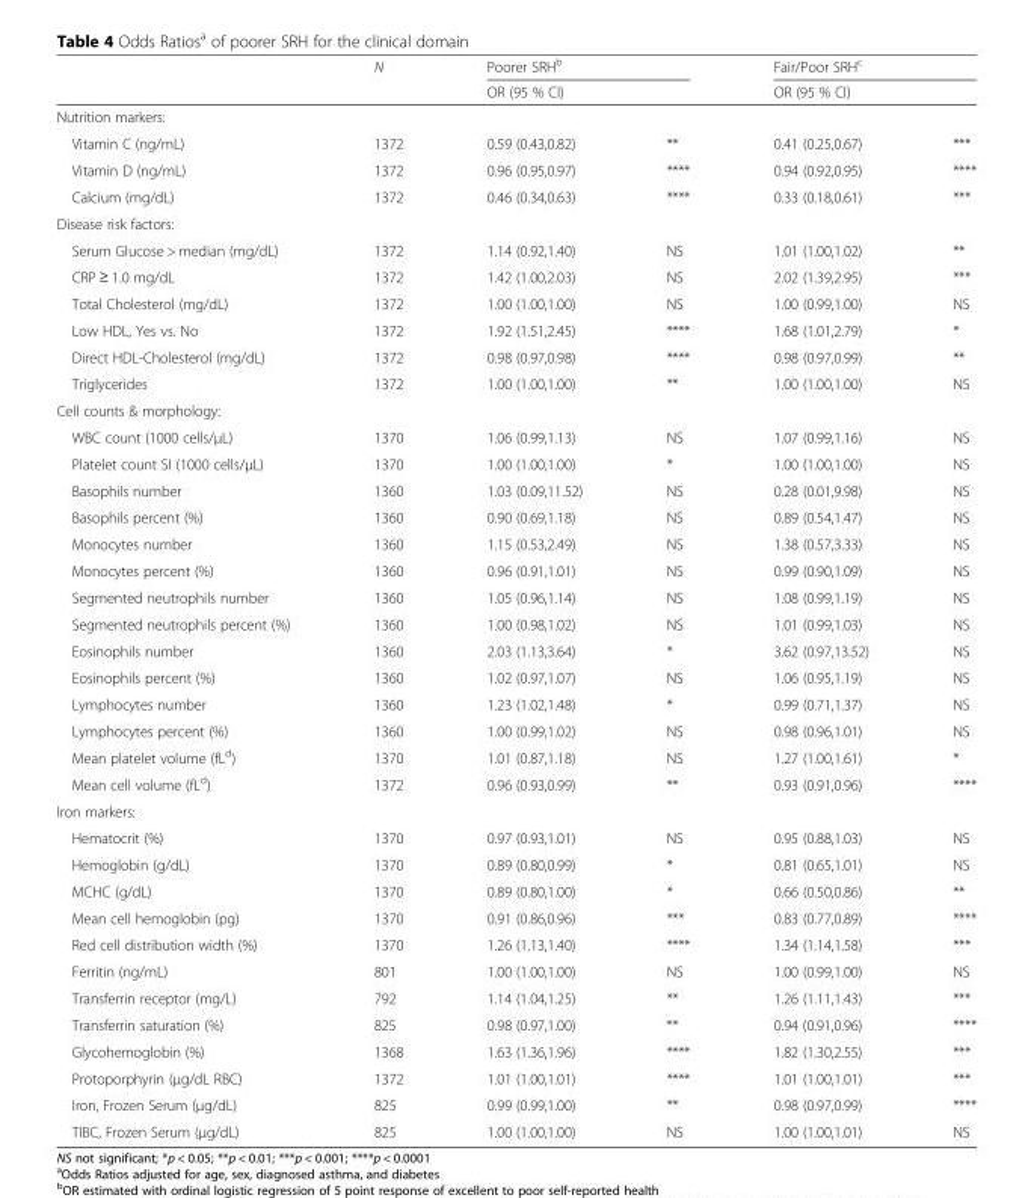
<table><thead><tr><td rowspan="3">Nutrition markers:</td><td rowspan="3">N</td><td rowspan="2" colspan="2">Poorer SRH<sup>b</sup> OR (95 % CI)</td><td rowspan="2" colspan="2">Fair/Poor SRH<sup>c</sup> OR (95 % CI)</td></tr><tr></tr><tr><td></td><td></td><td></td><td></td></tr></thead><tbody><tr><td>Vitamin C (ng/mL)</td><td>1372</td><td>0.59 (0.43,0.82)</td><td>**</td><td>0.41 (0.25,0.67)</td><td>***</td></tr><tr><td>Vitamin D (ng/mL)</td><td>1372</td><td>0.96 (0.95,0.97)</td><td>****</td><td>0.94 (0.92,0.95)</td><td>****</td></tr><tr><td>Calcium (mg/dL)</td><td>1372</td><td>0.46 (0.34,0.63)</td><td>****</td><td>0.33 (0.18,0.61)</td><td>***</td></tr><tr><td colspan="6">Disease risk factors:</td></tr><tr><td>Serum Glucose &gt; median (mg/dL)</td><td>1372</td><td>1.14 (0.92,1.40)</td><td>NS</td><td>1.01 (1.00,1.02)</td><td>**</td></tr><tr><td>CRP ≥ 1.0 mg/dL</td><td>1372</td><td>1.42 (1.00,2.03)</td><td>NS</td><td>2.02 (1.39,2.95)</td><td>***</td></tr><tr><td>Total Cholesterol (mg/dL)</td><td>1372</td><td>1.00 (1.00,1.00)</td><td>NS</td><td>1.00 (0.99,1.00)</td><td>NS</td></tr><tr><td>Low HDL, Yes vs. No</td><td>1372</td><td>1.92 (1.51,2.45)</td><td>****</td><td>1.68 (1.01,2.79)</td><td>*</td></tr><tr><td>Direct HDL-Cholesterol (mg/dL)</td><td>1372</td><td>0.98 (0.97,0.98)</td><td>****</td><td>0.98 (0.97,0.99)</td><td>**</td></tr><tr><td>Triglycerides</td><td>1372</td><td>1.00 (1.00,1.00)</td><td>**</td><td>1.00 (1.00,1.00)</td><td>NS</td></tr><tr><td colspan="6">Cell counts &amp; morphology:</td></tr><tr><td>WBC count (1000 cells/μL)</td><td>1370</td><td>1.06 (0.99,1.13)</td><td>NS</td><td>1.07 (0.99,1.16)</td><td>NS</td></tr><tr><td>Platelet count SI (1000 cells/μL)</td><td>1370</td><td>1.00 (1.00,1.00)</td><td>*</td><td>1.00 (1.00,1.00)</td><td>NS</td></tr><tr><td>Basophils number</td><td>1360</td><td>1.03 (0.09,11.52)</td><td>NS</td><td>0.28 (0.01,9.98)</td><td>NS</td></tr><tr><td>Basophils percent (%)</td><td>1360</td><td>0.90 (0.69,1.18)</td><td>NS</td><td>0.89 (0.54,1.47)</td><td>NS</td></tr><tr><td>Monocytes number</td><td>1360</td><td>1.15 (0.53,2.49)</td><td>NS</td><td>1.38 (0.57,3.33)</td><td>NS</td></tr><tr><td>Monocytes percent (%)</td><td>1360</td><td>0.96 (0.91,1.01)</td><td>NS</td><td>0.99 (0.90,1.09)</td><td>NS</td></tr><tr><td>Segmented neutrophils number</td><td>1360</td><td>1.05 (0.96,1.14)</td><td>NS</td><td>1.08 (0.99,1.19)</td><td>NS</td></tr><tr><td>Segmented neutrophils percent (%)</td><td>1360</td><td>1.00 (0.98,1.02)</td><td>NS</td><td>1.01 (0.99,1.03)</td><td>NS</td></tr><tr><td>Eosinophils number</td><td>1360</td><td>2.03 (1.13,3.64)</td><td>*</td><td>3.62 (0.97,13.52)</td><td>NS</td></tr><tr><td>Eosinophils percent (%)</td><td>1360</td><td>1.02 (0.97,1.07)</td><td>NS</td><td>1.06 (0.95,1.19)</td><td>NS</td></tr><tr><td>Lymphocytes number</td><td>1360</td><td>1.23 (1.02,1.48)</td><td>*</td><td>0.99 (0.71,1.37)</td><td>NS</td></tr><tr><td>Lymphocytes percent (%)</td><td>1360</td><td>1.00 (0.99,1.02)</td><td>NS</td><td>0.98 (0.96,1.01)</td><td>NS</td></tr><tr><td>Mean platelet volume (fL<sup>d</sup>)</td><td>1370</td><td>1.01 (0.87,1.18)</td><td>NS</td><td>1.27 (1.00,1.61)</td><td>*</td></tr><tr><td>Mean cell volume (fL<sup>d</sup>)</td><td>1372</td><td>0.96 (0.93,0.99)</td><td>**</td><td>0.93 (0.91,0.96)</td><td>****</td></tr><tr><td colspan="6">Iron markers:</td></tr><tr><td>Hematocrit (%)</td><td>1370</td><td>0.97 (0.93,1.01)</td><td>NS</td><td>0.95 (0.88,1.03)</td><td>NS</td></tr><tr><td>Hemoglobin (g/dL)</td><td>1370</td><td>0.89 (0.80,0.99)</td><td>*</td><td>0.81 (0.65,1.01)</td><td>NS</td></tr><tr><td>MCHC (g/dL)</td><td>1370</td><td>0.89 (0.80,1.00)</td><td>*</td><td>0.66 (0.50,0.86)</td><td>**</td></tr><tr><td>Mean cell hemoglobin (pg)</td><td>1370</td><td>0.91 (0.86,0.96)</td><td>***</td><td>0.83 (0.77,0.89)</td><td>****</td></tr><tr><td>Red cell distribution width (%)</td><td>1370</td><td>1.26 (1.13,1.40)</td><td>****</td><td>1.34 (1.14,1.58)</td><td>***</td></tr><tr><td>Ferritin (ng/mL)</td><td>801</td><td>1.00 (1.00,1.00)</td><td>NS</td><td>1.00 (0.99,1.00)</td><td>NS</td></tr><tr><td>Transferrin receptor (mg/L)</td><td>792</td><td>1.14 (1.04,1.25)</td><td>**</td><td>1.26 (1.11,1.43)</td><td>***</td></tr><tr><td>Transferrin saturation (%)</td><td>825</td><td>0.98 (0.97,1.00)</td><td>**</td><td>0.94 (0.91,0.96)</td><td>****</td></tr><tr><td>Glycohemoglobin (%)</td><td>1368</td><td>1.63 (1.36,1.96)</td><td>****</td><td>1.82 (1.30,2.55)</td><td>***</td></tr><tr><td>Protoporphyrin (μg/dL RBC)</td><td>1372</td><td>1.01 (1.00,1.01)</td><td>****</td><td>1.01 (1.00,1.01)</td><td>***</td></tr><tr><td>Iron, Frozen Serum (μg/dL)</td><td>825</td><td>0.99 (0.99,1.00)</td><td>**</td><td>0.98 (0.97,0.99)</td><td>****</td></tr><tr><td>TIBC, Frozen Serum (μg/dL)</td><td>825</td><td>1.00 (1.00,1.00)</td><td>NS</td><td>1.00 (1.00,1.01)</td><td>NS</td></tr></tbody></table>